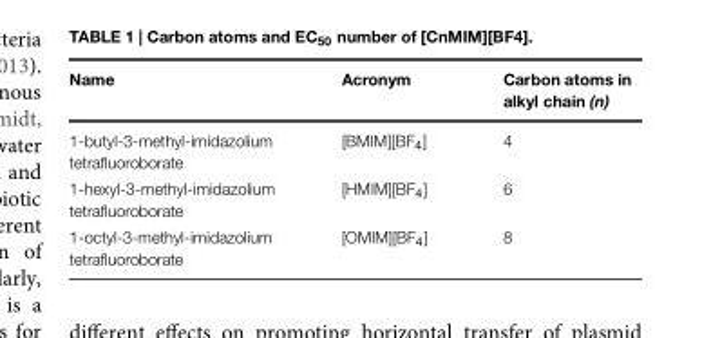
<table><thead><tr><td>Name</td><td>Acronym</td><td>Carbon atoms in alkyl chain (n)</td></tr></thead><tbody><tr><td>1-butyl-3-methyl-imidazolium tetrafluoroborate</td><td>[BMIM][BF<sub>4</sub>]</td><td>4</td></tr><tr><td>1-hexyl-3-methyl-imidazolium tetrafluoroborate</td><td>[HMIM][BF<sub>4</sub>]</td><td>6</td></tr><tr><td>1-octyl-3-methyl-imidazolium tetrafluoroborate</td><td>[OMIM][BF<sub>4</sub>]</td><td>8</td></tr></tbody></table>